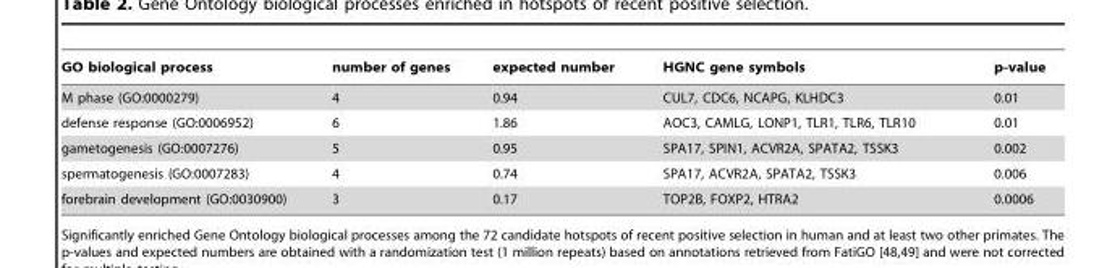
<table><thead><tr><td>GO biological process</td><td>number of genes</td><td>expected number</td><td>HGNC gene symbols</td><td>p-value</td></tr></thead><tbody><tr><td>M phase (GO:0000279)</td><td>4</td><td>0.94</td><td>CUL7, CDC6, NCAPG, KLHDC3</td><td>0.01</td></tr><tr><td>defense response (GO:0006952)</td><td>6</td><td>1.86</td><td>AOC3, CAMLG, LONP1, TLR1, TLR6, TLR10</td><td>0.01</td></tr><tr><td>gametogenesis (GO:0007276)</td><td>5</td><td>0.95</td><td>SPA17, SPIN1, ACVR2A, SPATA2, TSSK3</td><td>0.002</td></tr><tr><td>spermatogenesis (GO:0007283)</td><td>4</td><td>0.74</td><td>SPA17, ACVR2A, SPATA2, TSSK3</td><td>0.006</td></tr><tr><td>forebrain development (GO:0030900)</td><td>3</td><td>0.17</td><td>TOP2B, FOXP2, HTRA2</td><td>0.0006</td></tr></tbody></table>